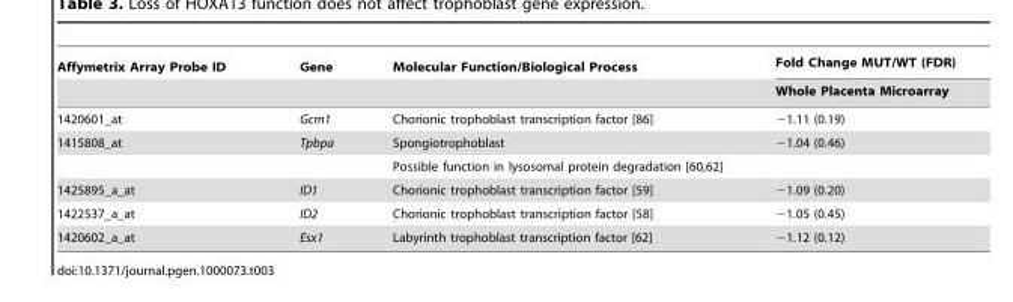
<table><thead><tr><td rowspan="2">Affymetrix Array Probe ID</td><td rowspan="2">Gene</td><td rowspan="2">Molecular Function/Biological Process</td><td rowspan="2">Fold Change MUT/WT (FDR) Whole Placenta Microarray</td></tr><tr></tr></thead><tbody><tr><td>1420601_at</td><td>Gcm1</td><td>Chorionic trophoblast transcription factor [86]</td><td>−1.11 (0.19)</td></tr><tr><td rowspan="2">1415808_at</td><td>Tpbpa</td><td>Spongiotrophoblast</td><td>−1.04 (0.46)</td></tr><tr><td></td><td>Possible function in lysosomal protein degradation [60,62]</td><td></td></tr><tr><td>1425895_a_at</td><td>ID1</td><td>Chorionic trophoblast transcription factor [59]</td><td>−1.09 (0.20)</td></tr><tr><td>1422537_a_at</td><td>ID2</td><td>Chorionic trophoblast transcription factor [58]</td><td>−1.05 (0.45)</td></tr><tr><td>1420602_a_at</td><td>Esx1</td><td>Labyrinth trophoblast transcription factor [62]</td><td>−1.12 (0.12)</td></tr></tbody></table>